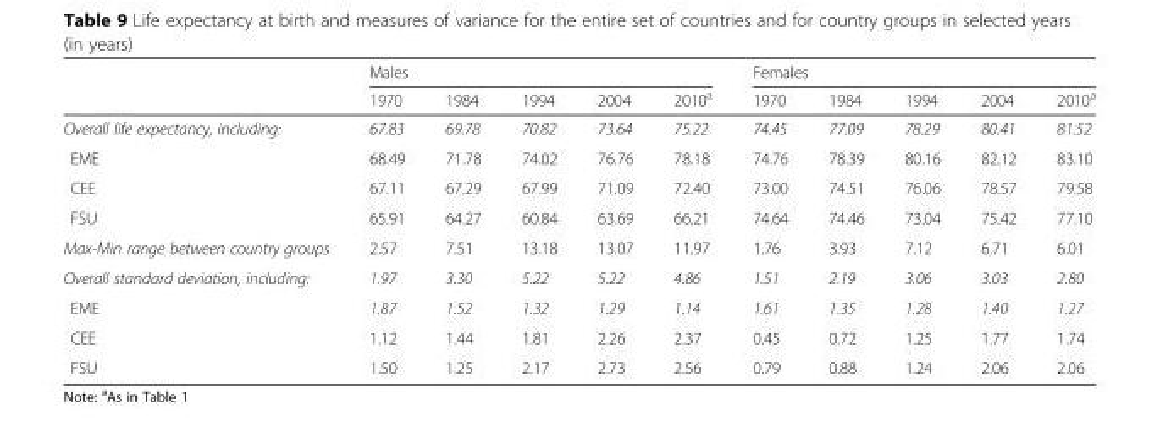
<table><thead><tr><td rowspan="2"></td><td colspan="5">Males</td><td colspan="5">Females</td></tr><tr><td>1970</td><td>1984</td><td>1994</td><td>2004</td><td>2010<sup>a</sup></td><td>1970</td><td>1984</td><td>1994</td><td>2004</td><td>2010<sup>a</sup></td></tr></thead><tbody><tr><td>Overall life expectancy, including:</td><td>67.83</td><td>69.78</td><td>70.82</td><td>73.64</td><td>75.22</td><td>74.45</td><td>77.09</td><td>78.29</td><td>80.41</td><td>81.52</td></tr><tr><td>EME</td><td>68.49</td><td>71.78</td><td>74.02</td><td>76.76</td><td>78.18</td><td>74.76</td><td>78.39</td><td>80.16</td><td>82.12</td><td>83.10</td></tr><tr><td>CEE</td><td>67.11</td><td>67.29</td><td>67.99</td><td>71.09</td><td>72.40</td><td>73.00</td><td>74.51</td><td>76.06</td><td>78.57</td><td>79.58</td></tr><tr><td>FSU</td><td>65.91</td><td>64.27</td><td>60.84</td><td>63.69</td><td>66.21</td><td>74.64</td><td>74.46</td><td>73.04</td><td>75.42</td><td>77.10</td></tr><tr><td>Max-Min range between country groups</td><td>2.57</td><td>7.51</td><td>13.18</td><td>13.07</td><td>11.97</td><td>1.76</td><td>3.93</td><td>7.12</td><td>6.71</td><td>6.01</td></tr><tr><td>Overall standard deviation, including:</td><td>1.97</td><td>3.30</td><td>5.22</td><td>5.22</td><td>4.86</td><td>1.51</td><td>2.19</td><td>3.06</td><td>3.03</td><td>2.80</td></tr><tr><td>EME</td><td>1.87</td><td>1.52</td><td>1.32</td><td>1.29</td><td>1.14</td><td>1.61</td><td>1.35</td><td>1.28</td><td>1.40</td><td>1.27</td></tr><tr><td>CEE</td><td>1.12</td><td>1.44</td><td>1.81</td><td>2.26</td><td>2.37</td><td>0.45</td><td>0.72</td><td>1.25</td><td>1.77</td><td>1.74</td></tr><tr><td>FSU</td><td>1.50</td><td>1.25</td><td>2.17</td><td>2.73</td><td>2.56</td><td>0.79</td><td>0.88</td><td>1.24</td><td>2.06</td><td>2.06</td></tr></tbody></table>